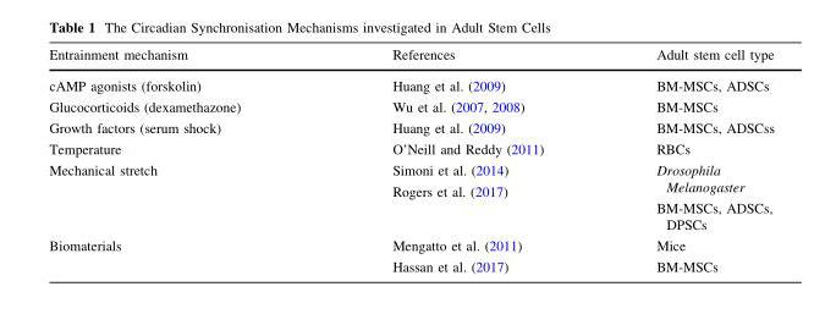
<table><thead><tr><td>Entrainment mechanism</td><td>References</td><td>Adult stem cell type</td></tr></thead><tbody><tr><td>cAMP agonists (forskolin)</td><td>Huang et al. (2009)</td><td>BM-MSCs, ADSCs</td></tr><tr><td>Glucocorticoids (dexamethazone)</td><td>Wu et al. (2007, 2008)</td><td>BM-MSCs</td></tr><tr><td>Growth factors (serum shock)</td><td>Huang et al. (2009)</td><td>BM-MSCs, ADSCss</td></tr><tr><td>Temperature</td><td>O’Neill and Reddy (2011)</td><td>RBCs</td></tr><tr><td>Mechanical stretch</td><td>Simoni et al. (2014) Rogers et al. (2017)</td><td>Drosophila Melanogaster BM-MSCs, ADSCs, DPSCs</td></tr><tr><td>Biomaterials</td><td>Mengatto et al. (2011) Hassan et al. (2017)</td><td>Mice BM-MSCs</td></tr></tbody></table>